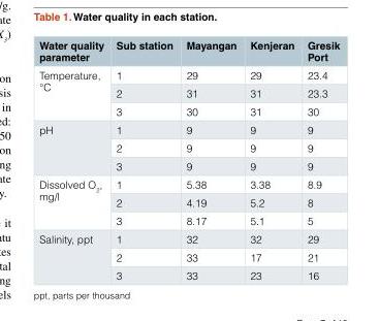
<table><thead><tr><td>Water quality parameter</td><td>Sub station</td><td>Mayangan</td><td>Kenjeran</td><td>Gresik Port</td></tr></thead><tbody><tr><td rowspan="3">Temperature, °C</td><td>1</td><td>29</td><td>29</td><td>23.4</td></tr><tr><td>2</td><td>31</td><td>31</td><td>23.3</td></tr><tr><td>3</td><td>30</td><td>31</td><td>30</td></tr><tr><td rowspan="3">pH</td><td>1</td><td>9</td><td>9</td><td>9</td></tr><tr><td>2</td><td>9</td><td>9</td><td>9</td></tr><tr><td>3</td><td>9</td><td>9</td><td>9</td></tr><tr><td rowspan="3">Dissolved O<sub>2</sub>, mg/l</td><td>1</td><td>5.38</td><td>3.38</td><td>8.9</td></tr><tr><td>2</td><td>4.19</td><td>5.2</td><td>8</td></tr><tr><td>3</td><td>8.17</td><td>5.1</td><td>5</td></tr><tr><td rowspan="3">Salinity, ppt</td><td>1</td><td>32</td><td>32</td><td>29</td></tr><tr><td>2</td><td>33</td><td>17</td><td>21</td></tr><tr><td>3</td><td>33</td><td>23</td><td>16</td></tr></tbody></table>